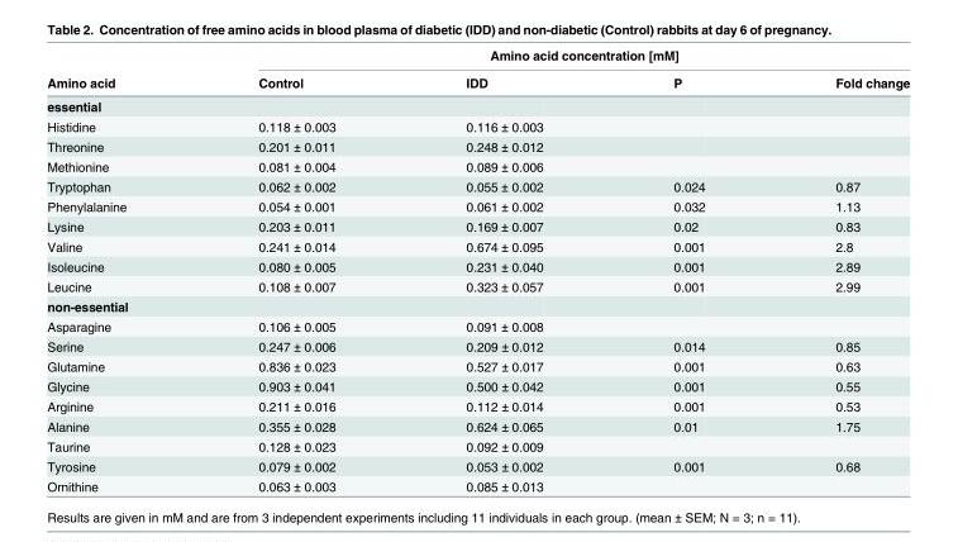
<table><thead><tr><td rowspan="2">Amino acid</td><td colspan="4">Amino acid concentration [mM]</td></tr><tr><td>Control</td><td>IDD</td><td>P</td><td>Fold change</td></tr></thead><tbody><tr><td colspan="5">essential</td></tr><tr><td>Histidine</td><td>0.118 ± 0.003</td><td>0.116 ± 0.003</td><td></td><td></td></tr><tr><td>Threonine</td><td>0.201 ± 0.011</td><td>0.248 ± 0.012</td><td></td><td></td></tr><tr><td>Methionine</td><td>0.081 ± 0.004</td><td>0.089 ± 0.006</td><td></td><td></td></tr><tr><td>Tryptophan</td><td>0.062 ± 0.002</td><td>0.055 ± 0.002</td><td>0.024</td><td>0.87</td></tr><tr><td>Phenylalanine</td><td>0.054 ± 0.001</td><td>0.061 ± 0.002</td><td>0.032</td><td>1.13</td></tr><tr><td>Lysine</td><td>0.203 ± 0.011</td><td>0.169 ± 0.007</td><td>0.02</td><td>0.83</td></tr><tr><td>Valine</td><td>0.241 ± 0.014</td><td>0.674 ± 0.095</td><td>0.001</td><td>2.8</td></tr><tr><td>Isoleucine</td><td>0.080 ± 0.005</td><td>0.231 ± 0.040</td><td>0.001</td><td>2.89</td></tr><tr><td>Leucine</td><td>0.108 ± 0.007</td><td>0.323 ± 0.057</td><td>0.001</td><td>2.99</td></tr><tr><td colspan="5">non-essential</td></tr><tr><td>Asparagine</td><td>0.106 ± 0.005</td><td>0.091 ± 0.008</td><td></td><td></td></tr><tr><td>Serine</td><td>0.247 ± 0.006</td><td>0.209 ± 0.012</td><td>0.014</td><td>0.85</td></tr><tr><td>Glutamine</td><td>0.836 ± 0.023</td><td>0.527 ± 0.017</td><td>0.001</td><td>0.63</td></tr><tr><td>Glycine</td><td>0.903 ± 0.041</td><td>0.500 ± 0.042</td><td>0.001</td><td>0.55</td></tr><tr><td>Arginine</td><td>0.211 ± 0.016</td><td>0.112 ± 0.014</td><td>0.001</td><td>0.53</td></tr><tr><td>Alanine</td><td>0.355 ± 0.028</td><td>0.624 ± 0.065</td><td>0.01</td><td>1.75</td></tr><tr><td>Taurine</td><td>0.128 ± 0.023</td><td>0.092 ± 0.009</td><td></td><td></td></tr><tr><td>Tyrosine</td><td>0.079 ± 0.002</td><td>0.053 ± 0.002</td><td>0.001</td><td>0.68</td></tr><tr><td>Ornithine</td><td>0.063 ± 0.003</td><td>0.085 ± 0.013</td><td></td><td></td></tr></tbody></table>